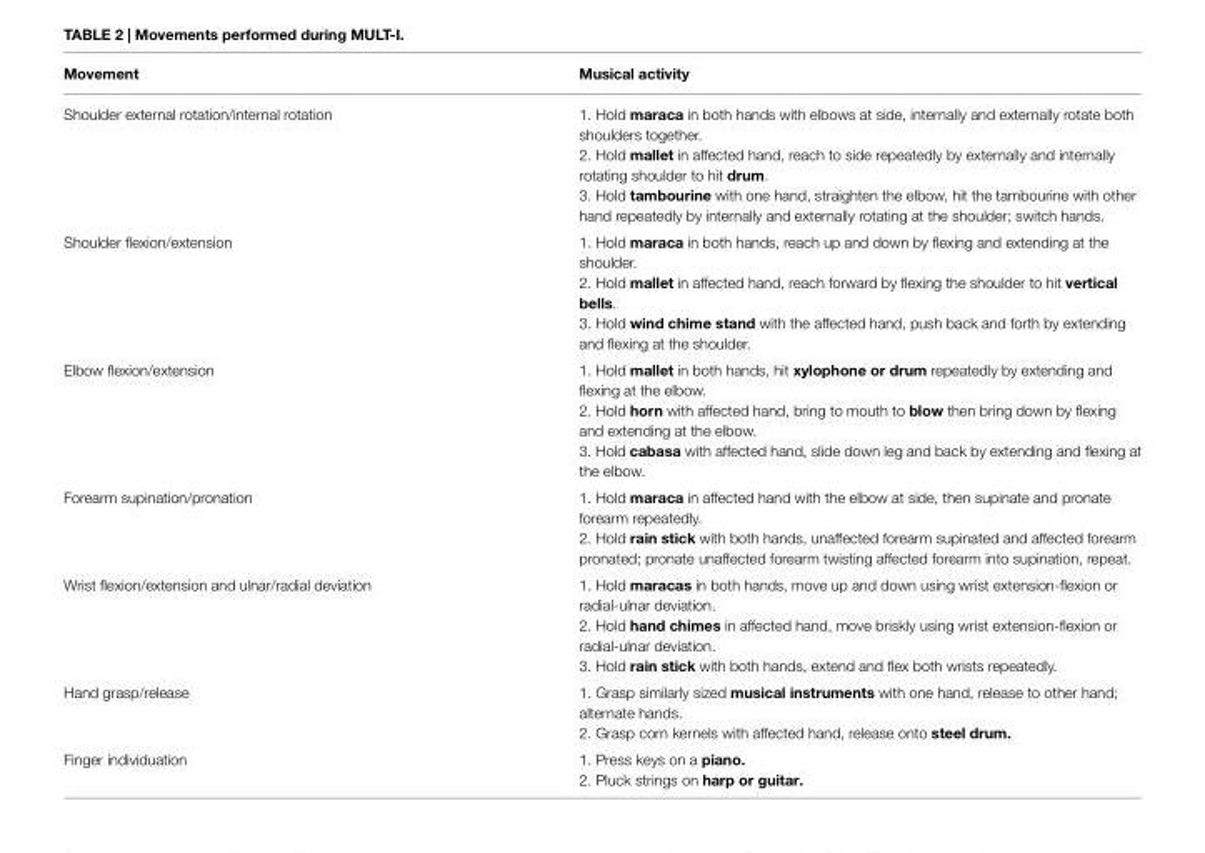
<table><thead><tr><td>Movement</td><td>Musical activity</td></tr></thead><tbody><tr><td rowspan="3">Shoulder external rotation/internal rotation</td><td>1. Hold maraca in both hands with elbows at side, internally and externally rotate both shoulders together.</td></tr><tr><td>2. Hold mallet in affected hand, reach to side repeatedly by externally and internally rotating shoulder to hit drum.</td></tr><tr><td>3. Hold tambourine with one hand, straighten the elbow, hit the tambourine with other hand repeatedly by internally and externally rotating at the shoulder; switch hands.</td></tr><tr><td rowspan="3">Shoulder flexion/extension</td><td>1. Hold maraca in both hands, reach up and down by flexing and extending at the shoulder.</td></tr><tr><td>2. Hold mallet in affected hand, reach forward by flexing the shoulder to hit vertical bells.</td></tr><tr><td>3. Hold wind chime stand with the affected hand, push back and forth by extending and flexing at the shoulder.</td></tr><tr><td rowspan="3">Elbow flexion/extension</td><td>1. Hold mallet in both hands, hit xylophone or drum repeatedly by extending and flexing at the elbow.</td></tr><tr><td>2. Hold horn with affected hand, bring to mouth to blow then bring down by flexing and extending at the elbow.</td></tr><tr><td>3. Hold cabasa with affected hand, slide down leg and back by extending and flexing at the elbow.</td></tr><tr><td rowspan="2">Forearm supination/pronation</td><td>1. Hold maraca in affected hand with the elbow at side, then supinate and pronate forearm repeatedly.</td></tr><tr><td>2. Hold rain stick with both hands, unaffected forearm supinated and affected forearm pronated; pronate unaffected forearm twisting affected forearm into supination, repeat.</td></tr><tr><td rowspan="3">Wrist flexion/extension and ulnar/radial deviation</td><td>1. Hold maracas in both hands, move up and down using wrist extension-flexion or radial-ulnar deviation.</td></tr><tr><td>2. Hold hand chimes in affected hand, move briskly using wrist extension-flexion or radial-ulnar deviation.</td></tr><tr><td>3. Hold rain stick with both hands, extend and flex both wrists repeatedly.</td></tr><tr><td rowspan="2">Hand grasp/release</td><td>1. Grasp similarly sized musical instruments with one hand, release to other hand; alternate hands.</td></tr><tr><td>2. Grasp corn kernels with affected hand, release onto steel drum.</td></tr><tr><td rowspan="2">Finger individuation</td><td>1. Press keys on a piano.</td></tr><tr><td>2. Pluck strings on harp or guitar.</td></tr></tbody></table>